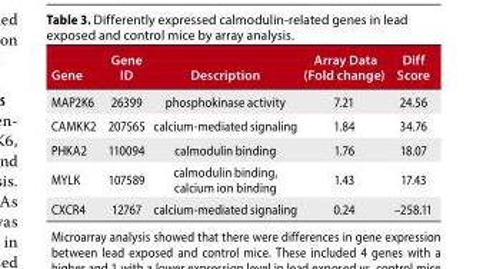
<table><thead><tr><td>Gene</td><td>Gene ID</td><td>Description</td><td>Array Data (Fold change)</td><td>Diff Score</td></tr></thead><tbody><tr><td>MAP2K6</td><td>26399</td><td>phosphokinase activity</td><td>7.21</td><td>24.56</td></tr><tr><td>CAMKK2</td><td>207565</td><td>calcium-mediated signaling</td><td>1.84</td><td>34.76</td></tr><tr><td>PHKA2</td><td>110094</td><td>calmodulin binding</td><td>1.76</td><td>18.07</td></tr><tr><td>MYLK</td><td>107589</td><td>calmodulin binding, calcium ion binding</td><td>1.43</td><td>17.43</td></tr><tr><td>CXCR4</td><td>12767</td><td>calcium-mediated signaling</td><td>0.24</td><td>–258.11</td></tr></tbody></table>